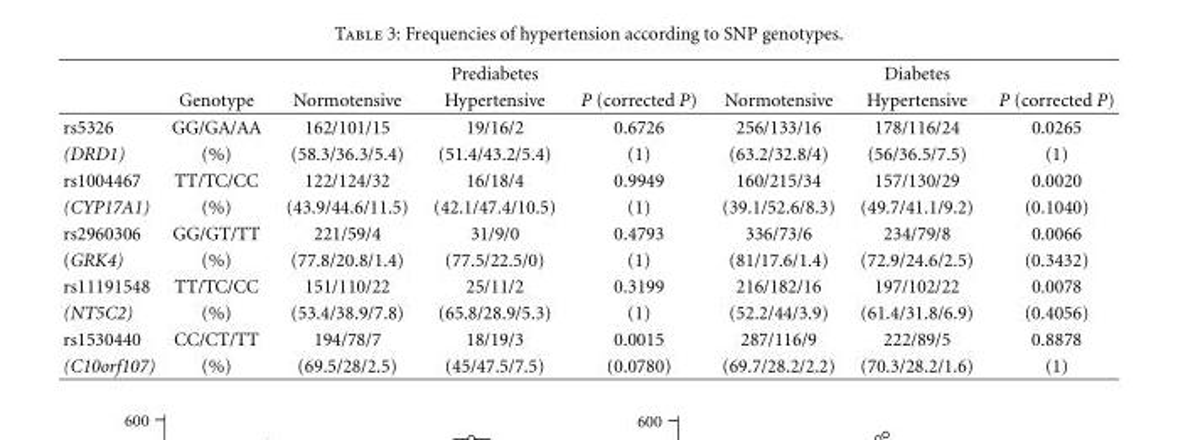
<table><thead><tr><td rowspan="2"></td><td rowspan="2">Genotype</td><td rowspan="2">Normotensive</td><td rowspan="2">Prediabetes Hypertensive</td><td rowspan="2">P (corrected P)</td><td rowspan="2">Normotensive</td><td rowspan="2">Diabetes Hypertensive</td><td rowspan="2">P (corrected P)</td></tr><tr></tr></thead><tbody><tr><td>rs5326</td><td>GG/GA/AA</td><td>162/101/15</td><td>19/16/2</td><td>0.6726</td><td>256/133/16</td><td>178/116/24</td><td>0.0265</td></tr><tr><td>(DRD1)</td><td>(%)</td><td>(58.3/36.3/5.4)</td><td>(51.4/43.2/5.4)</td><td>(1)</td><td>(63.2/32.8/4)</td><td>(56/36.5/7.5)</td><td>(1)</td></tr><tr><td>rs1004467</td><td>TT/TC/CC</td><td>122/124/32</td><td>16/18/4</td><td>0.9949</td><td>160/215/34</td><td>157/130/29</td><td>0.0020</td></tr><tr><td>(CYP17A1)</td><td>(%)</td><td>(43.9/44.6/11.5)</td><td>(42.1/47.4/10.5)</td><td>(1)</td><td>(39.1/52.6/8.3)</td><td>(49.7/41.1/9.2)</td><td>(0.1040)</td></tr><tr><td>rs2960306</td><td>GG/GT/TT</td><td>221/59/4</td><td>31/9/0</td><td>0.4793</td><td>336/73/6</td><td>234/79/8</td><td>0.0066</td></tr><tr><td>(GRK4)</td><td>(%)</td><td>(77.8/20.8/1.4)</td><td>(77.5/22.5/0)</td><td>(1)</td><td>(81/17.6/1.4)</td><td>(72.9/24.6/2.5)</td><td>(0.3432)</td></tr><tr><td>rs11191548</td><td>TT/TC/CC</td><td>151/110/22</td><td>25/11/2</td><td>0.3199</td><td>216/182/16</td><td>197/102/22</td><td>0.0078</td></tr><tr><td>(NT5C2)</td><td>(%)</td><td>(53.4/38.9/7.8)</td><td>(65.8/28.9/5.3)</td><td>(1)</td><td>(52.2/44/3.9)</td><td>(61.4/31.8/6.9)</td><td>(0.4056)</td></tr><tr><td>rs1530440</td><td>CC/CT/TT</td><td>194/78/7</td><td>18/19/3</td><td>0.0015</td><td>287/116/9</td><td>222/89/5</td><td>0.8878</td></tr><tr><td>(C10orf107)</td><td>(%)</td><td>(69.5/28/2.5)</td><td>(45/47.5/7.5)</td><td>(0.0780)</td><td>(69.7/28.2/2.2)</td><td>(70.3/28.2/1.6)</td><td>(1)</td></tr></tbody></table>